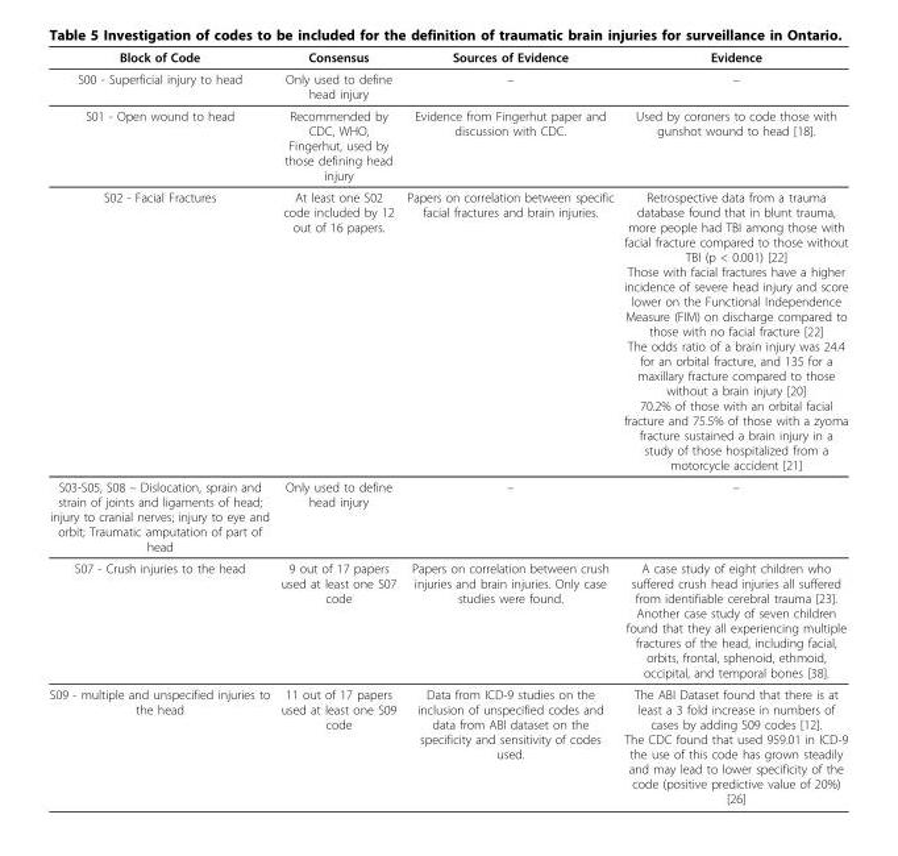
<table><thead><tr><td>Block of Code</td><td>Consensus</td><td>Sources of Evidence</td><td>Evidence</td></tr></thead><tbody><tr><td>S00 - Superficial injury to head</td><td>Only used to define head injury</td><td>–</td><td>–</td></tr><tr><td>S01 - Open wound to head</td><td>Recommended by CDC, WHO, Fingerhut, used by those defining head injury</td><td>Evidence from Fingerhut paper and discussion with CDC.</td><td>Used by coroners to code those with gunshot wound to head [18].</td></tr><tr><td>S02 - Facial Fractures</td><td>At least one S02 code included by 12 out of 16 papers.</td><td>Papers on correlation between specific facial fractures and brain injuries.</td><td>Retrospective data from a trauma database found that in blunt trauma, more people had TBI among those with facial fracture compared to those without TBI (p &lt; 0.001) [22] Those with facial fractures have a higher incidence of severe head injury and score lower on the Functional Independence Measure (FIM) on discharge compared to those with no facial fracture [22] The odds ratio of a brain injury was 24.4 for an orbital fracture, and 135 for a maxillary fracture compared to those without a brain injury [20] 70.2% of those with an orbital facial fracture and 75.5% of those with a zyoma fracture sustained a brain injury in a study of those hospitalized from a motorcycle accident [21]</td></tr><tr><td>S03-S05, S08 – Dislocation, sprain and strain of joints and ligaments of head; injury to cranial nerves; injury to eye and orbit; Traumatic amputation of part of head</td><td>Only used to define head injury</td><td>–</td><td>–</td></tr><tr><td>S07 - Crush injuries to the head</td><td>9 out of 17 papers used at least one S07 code</td><td>Papers on correlation between crush injuries and brain injuries. Only case studies were found.</td><td>A case study of eight children who suffered crush head injuries all suffered from identifiable cerebral trauma [23]. Another case study of seven children found that they all experiencing multiple fractures of the head, including facial, orbits, frontal, sphenoid, ethmoid, occipital, and temporal bones [38].</td></tr><tr><td>S09 - multiple and unspecified injuries to the head</td><td>11 out of 17 papers used at least one S09 code</td><td>Data from ICD-9 studies on the inclusion of unspecified codes and data from ABI dataset on the specificity and sensitivity of codes used.</td><td>The ABI Dataset found that there is at least a 3 fold increase in numbers of cases by adding S09 codes [12]. The CDC found that used 959.01 in ICD-9 the use of this code has grown steadily and may lead to lower specificity of the code (positive predictive value of 20%) [26]</td></tr></tbody></table>